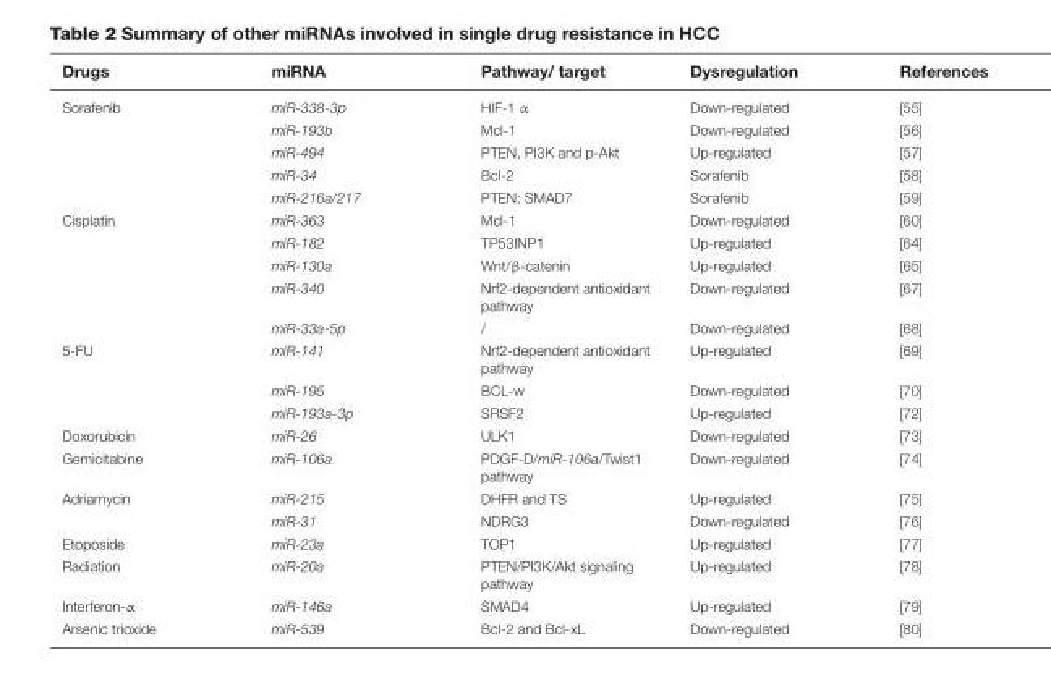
<table><thead><tr><td>Drugs</td><td>miRNA</td><td>Pathway/ target</td><td>Dysregulation</td><td>References</td></tr></thead><tbody><tr><td rowspan="5">Sorafenib</td><td>miR-338-3p</td><td>HIF-1 α</td><td>Down-regulated</td><td>[55]</td></tr><tr><td>miR-193b</td><td>Mcl-1</td><td>Down-regulated</td><td>[56]</td></tr><tr><td>miR-494</td><td>PTEN, PI3K and p-Akt</td><td>Up-regulated</td><td>[57]</td></tr><tr><td>miR-34</td><td>Bcl-2</td><td>Sorafenib</td><td>[58]</td></tr><tr><td>miR-216a/217</td><td>PTEN; SMAD7</td><td>Sorafenib</td><td>[59]</td></tr><tr><td rowspan="5">Cisplatin</td><td>miR-363</td><td>Mcl-1</td><td>Down-regulated</td><td>[60]</td></tr><tr><td>miR-182</td><td>TP53INP1</td><td>Up-regulated</td><td>[64]</td></tr><tr><td>miR-130a</td><td>Wnt/β-catenin</td><td>Up-regulated</td><td>[65]</td></tr><tr><td>miR-340</td><td>Nrf2-dependent antioxidant pathway</td><td>Down-regulated</td><td>[67]</td></tr><tr><td>miR-33a-5p</td><td>/</td><td>Down-regulated</td><td>[68]</td></tr><tr><td rowspan="3">5-FU</td><td>miR-141</td><td>Nrf2-dependent antioxidant pathway</td><td>Up-regulated</td><td>[69]</td></tr><tr><td>miR-195</td><td>BCL-w</td><td>Down-regulated</td><td>[70]</td></tr><tr><td>miR-193a-3p</td><td>SRSF2</td><td>Up-regulated</td><td>[72]</td></tr><tr><td>Doxorubicin</td><td>miR-26</td><td>ULK1</td><td>Down-regulated</td><td>[73]</td></tr><tr><td>Gemicitabine</td><td>miR-106a</td><td>PDGF-D/miR-106a/Twist1 pathway</td><td>Down-regulated</td><td>[74]</td></tr><tr><td rowspan="2">Adriamycin</td><td>miR-215</td><td>DHFR and TS</td><td>Up-regulated</td><td>[75]</td></tr><tr><td>miR-31</td><td>NDRG3</td><td>Down-regulated</td><td>[76]</td></tr><tr><td>Etoposide</td><td>miR-23a</td><td>TOP1</td><td>Up-regulated</td><td>[77]</td></tr><tr><td>Radiation</td><td>miR-20a</td><td>PTEN/PI3K/Akt signaling pathway</td><td>Up-regulated</td><td>[78]</td></tr><tr><td>Interferon-α</td><td>miR-146a</td><td>SMAD4</td><td>Up-regulated</td><td>[79]</td></tr><tr><td>Arsenic trioxide</td><td>miR-539</td><td>Bcl-2 and Bcl-xL</td><td>Down-regulated</td><td>[80]</td></tr></tbody></table>